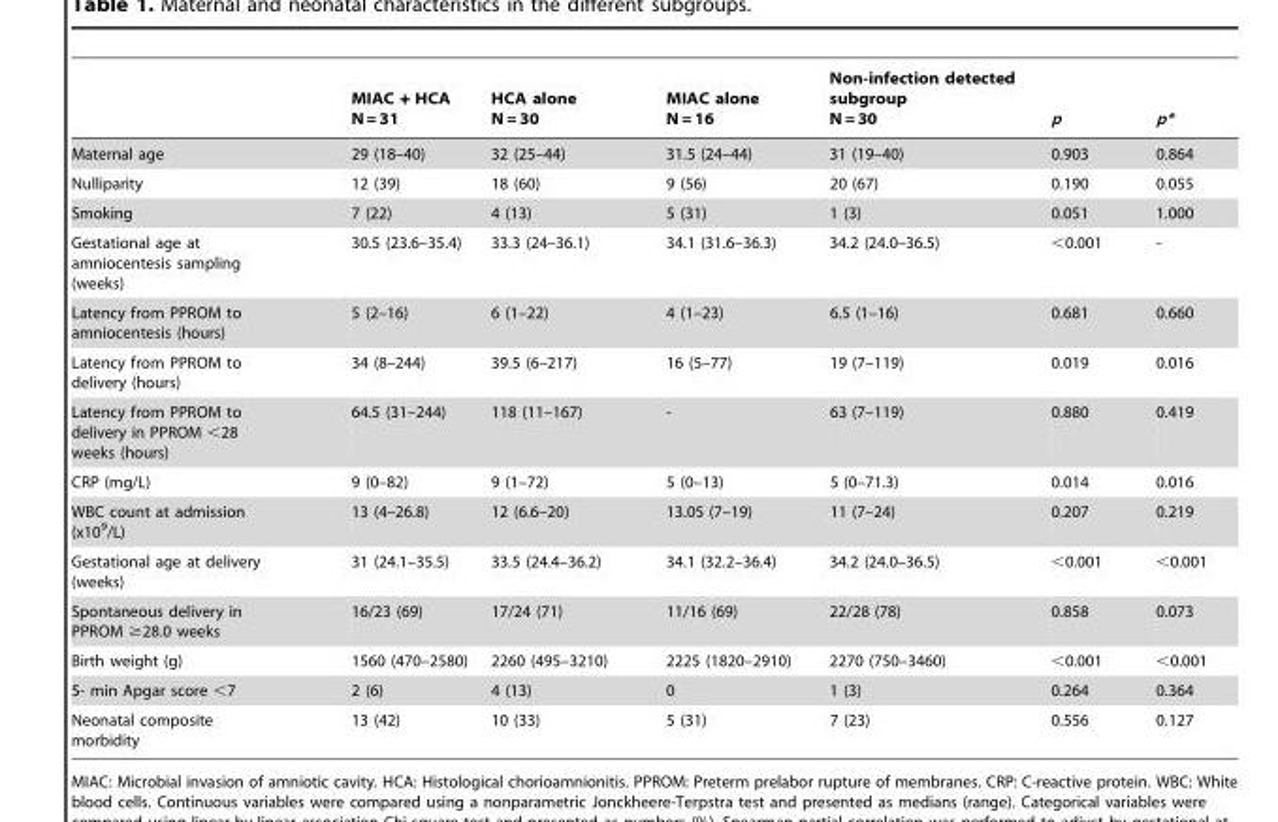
<table><thead><tr><td></td><td>MIAC + HCA N = 31</td><td>HCA alone N = 30</td><td>MIAC alone N = 16</td><td>Non-infection detected subgroup N = 30</td><td>p</td><td>p*</td></tr></thead><tbody><tr><td>Maternal age</td><td>29 (18–40)</td><td>32 (25–44)</td><td>31.5 (24–44)</td><td>31 (19–40)</td><td>0.903</td><td>0.864</td></tr><tr><td>Nulliparity</td><td>12 (39)</td><td>18 (60)</td><td>9 (56)</td><td>20 (67)</td><td>0.190</td><td>0.055</td></tr><tr><td>Smoking</td><td>7 (22)</td><td>4 (13)</td><td>5 (31)</td><td>1 (3)</td><td>0.051</td><td>1.000</td></tr><tr><td>Gestational age at amniocentesis sampling (weeks)</td><td>30.5 (23.6–35.4)</td><td>33.3 (24–36.1)</td><td>34.1 (31.6–36.3)</td><td>34.2 (24.0–36.5)</td><td>&lt;0.001</td><td>-</td></tr><tr><td>Latency from PPROM to amniocentesis (hours)</td><td>5 (2–16)</td><td>6 (1–22)</td><td>4 (1–23)</td><td>6.5 (1–16)</td><td>0.681</td><td>0.660</td></tr><tr><td>Latency from PPROM to delivery (hours)</td><td>34 (8–244)</td><td>39.5 (6–217)</td><td>16 (5–77)</td><td>19 (7–119)</td><td>0.019</td><td>0.016</td></tr><tr><td>Latency from PPROM to delivery in PPROM &lt;28 weeks (hours)</td><td>64.5 (31–244)</td><td>118 (11–167)</td><td>-</td><td>63 (7–119)</td><td>0.880</td><td>0.419</td></tr><tr><td>CRP (mg/L)</td><td>9 (0–82)</td><td>9 (1–72)</td><td>5 (0–13)</td><td>5 (0–71.3)</td><td>0.014</td><td>0.016</td></tr><tr><td>WBC count at admission (x10<sup>9</sup>/L)</td><td>13 (4–26.8)</td><td>12 (6.6–20)</td><td>13.05 (7–19)</td><td>11 (7–24)</td><td>0.207</td><td>0.219</td></tr><tr><td>Gestational age at delivery (weeks)</td><td>31 (24.1–35.5)</td><td>33.5 (24.4–36.2)</td><td>34.1 (32.2–36.4)</td><td>34.2 (24.0–36.5)</td><td>&lt;0.001</td><td>&lt;0.001</td></tr><tr><td>Spontaneous delivery in PPROM ≥28.0 weeks</td><td>16/23 (69)</td><td>17/24 (71)</td><td>11/16 (69)</td><td>22/28 (78)</td><td>0.858</td><td>0.073</td></tr><tr><td>Birth weight (g)</td><td>1560 (470–2580)</td><td>2260 (495–3210)</td><td>2225 (1820–2910)</td><td>2270 (750–3460)</td><td>&lt;0.001</td><td>&lt;0.001</td></tr><tr><td>5- min Apgar score &lt;7</td><td>2 (6)</td><td>4 (13)</td><td>0</td><td>1 (3)</td><td>0.264</td><td>0.364</td></tr><tr><td>Neonatal composite morbidity</td><td>13 (42)</td><td>10 (33)</td><td>5 (31)</td><td>7 (23)</td><td>0.556</td><td>0.127</td></tr></tbody></table>